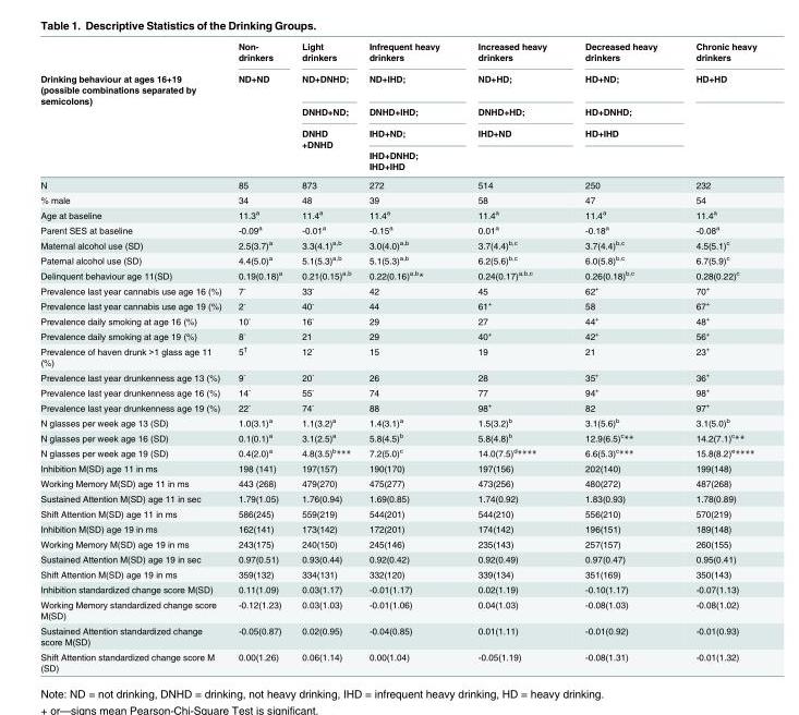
<table><thead><tr><td rowspan="6">Drinking behaviour at ages 16+19 (possible combinations separated by semicolons)</td><td rowspan="6">Non- drinkers ND+ND</td><td rowspan="6">Light drinkers ND+DNHD; DNHD+ND; DNHD +DNHD</td><td rowspan="6">Infrequent heavy drinkers ND+IHD; DNHD+IHD; IHD+ND; IHD+DNHD; IHD+IHD</td><td rowspan="6">Increased heavy drinkers ND+HD; DNHD+HD; IHD+ND</td><td rowspan="6">Decreased heavy drinkers HD+ND; HD+DNHD; HD+IHD</td><td rowspan="6">Chronic heavy drinkers HD+HD</td></tr><tr></tr><tr></tr><tr></tr><tr></tr><tr></tr></thead><tbody><tr><td>N</td><td>85</td><td>873</td><td>272</td><td>514</td><td>250</td><td>232</td></tr><tr><td>% male</td><td>34</td><td>48</td><td>39</td><td>58</td><td>47</td><td>54</td></tr><tr><td>Age at baseline</td><td>11.3<sup>a</sup></td><td>11.4<sup>a</sup></td><td>11.4<sup>a</sup></td><td>11.4<sup>a</sup></td><td>11.4<sup>a</sup></td><td>11.4<sup>a</sup></td></tr><tr><td>Parent SES at baseline</td><td>-0.09<sup>a</sup></td><td>-0.01<sup>a</sup></td><td>-0.15<sup>a</sup></td><td>0.01<sup>a</sup></td><td>-0.18<sup>a</sup></td><td>-0.08<sup>a</sup></td></tr><tr><td>Maternal alcohol use (SD)</td><td>2.5(3.7)<sup>a</sup></td><td>3.3(4.1)<sup>a,b</sup></td><td>3.0(4.0)<sup>a,b</sup></td><td>3.7(4.4)<sup>b,c</sup></td><td>3.7(4.4)<sup>b,c</sup></td><td>4.5(5.1)<sup>c</sup></td></tr><tr><td>Paternal alcohol use (SD)</td><td>4.4(5.0)<sup>a</sup></td><td>5.1(5.3)<sup>a,b</sup></td><td>5.1(5.3)<sup>a,b</sup></td><td>6.2(5.6)<sup>b,c</sup></td><td>6.0(5.8)<sup>b,c</sup></td><td>6.7(5.9)<sup>c</sup></td></tr><tr><td>Delinquent behaviour age 11(SD)</td><td>0.19(0.18)<sup>a</sup></td><td>0.21(0.15)<sup>a,b</sup></td><td>0.22(0.16)<sup>a,b</sup>*</td><td>0.24(0.17)<sup>a,b,c</sup></td><td>0.26(0.18)<sup>b,c</sup></td><td>0.28(0.22)<sup>c</sup></td></tr><tr><td>Prevalence last year cannabis use age 16 (%)</td><td>7<sup>-</sup></td><td>33<sup>-</sup></td><td>42</td><td>45</td><td>62<sup>+</sup></td><td>70<sup>+</sup></td></tr><tr><td>Prevalence last year cannabis use age 19 (%)</td><td>2<sup>-</sup></td><td>40<sup>-</sup></td><td>44</td><td>61<sup>+</sup></td><td>58</td><td>67<sup>+</sup></td></tr><tr><td>Prevalence daily smoking at age 16 (%)</td><td>10<sup>-</sup></td><td>16<sup>-</sup></td><td>29</td><td>27</td><td>44<sup>+</sup></td><td>48<sup>+</sup></td></tr><tr><td>Prevalence daily smoking at age 19 (%)</td><td>8<sup>-</sup></td><td>21</td><td>29</td><td>40<sup>+</sup></td><td>42<sup>+</sup></td><td>56<sup>+</sup></td></tr><tr><td>Prevalence of haven drunk &gt;1 glass age 11 (%)</td><td>5<sup>†</sup></td><td>12<sup>-</sup></td><td>15</td><td>19</td><td>21</td><td>23<sup>+</sup></td></tr><tr><td>Prevalence last year drunkenness age 13 (%)</td><td>9<sup>-</sup></td><td>20<sup>-</sup></td><td>26</td><td>28</td><td>35<sup>+</sup></td><td>36<sup>+</sup></td></tr><tr><td>Prevalence last year drunkenness age 16 (%)</td><td>14<sup>-</sup></td><td>55<sup>-</sup></td><td>74</td><td>77</td><td>94<sup>+</sup></td><td>98<sup>+</sup></td></tr><tr><td>Prevalence last year drunkenness age 19 (%)</td><td>22<sup>-</sup></td><td>74<sup>-</sup></td><td>88</td><td>98<sup>+</sup></td><td>82</td><td>97<sup>+</sup></td></tr><tr><td>N glasses per week age 13 (SD)</td><td>1.0(3.1)<sup>a</sup></td><td>1.1(3.2)<sup>a</sup></td><td>1.4(3.1)<sup>a</sup></td><td>1.5(3.2)<sup>b</sup></td><td>3.1(5.6)<sup>b</sup></td><td>3.1(5.0)<sup>b</sup></td></tr><tr><td>N glasses per week age 16 (SD)</td><td>0.1(0.1)<sup>a</sup></td><td>3.1(2.5)<sup>a</sup></td><td>5.8(4.5)<sup>b</sup></td><td>5.8(4.8)<sup>b</sup></td><td>12.9(6.5)<sup>c</sup>**</td><td>14.2(7.1)<sup>c</sup>**</td></tr><tr><td>N glasses per week age 19 (SD)</td><td>0.4(2.0)<sup>a</sup></td><td>4.8(3.5)<sup>b</sup>***</td><td>7.2(5.0)<sup>c</sup></td><td>14.0(7.5)<sup>d</sup>****</td><td>6.6(5.3)<sup>c</sup>***</td><td>15.8(8.2)<sup>e</sup>****</td></tr><tr><td>Inhibition M(SD) age 11 in ms</td><td>198 (141)</td><td>197(157)</td><td>190(170)</td><td>197(156)</td><td>202(140)</td><td>199(148)</td></tr><tr><td>Working Memory M(SD) age 11 in ms</td><td>443 (268)</td><td>479(270)</td><td>475(277)</td><td>473(256)</td><td>480(272)</td><td>487(268)</td></tr><tr><td>Sustained Attention M(SD) age 11 in sec</td><td>1.79(1.05)</td><td>1.76(0.94)</td><td>1.69(0.85)</td><td>1.74(0.92)</td><td>1.83(0.93)</td><td>1.78(0.89)</td></tr><tr><td>Shift Attention M(SD) age 11 in ms</td><td>586(245)</td><td>559(219)</td><td>544(201)</td><td>544(210)</td><td>556(210)</td><td>570(219)</td></tr><tr><td>Inhibition M(SD) age 19 in ms</td><td>162(141)</td><td>173(142)</td><td>172(201)</td><td>174(142)</td><td>196(151)</td><td>189(148)</td></tr><tr><td>Working Memory M(SD) age 19 in ms</td><td>243(175)</td><td>240(150)</td><td>245(146)</td><td>235(143)</td><td>257(157)</td><td>260(155)</td></tr><tr><td>Sustained Attention M(SD) age 19 in sec</td><td>0.97(0.51)</td><td>0.93(0.44)</td><td>0.92(0.42)</td><td>0.92(0.49)</td><td>0.97(0.47)</td><td>0.95(0.41)</td></tr><tr><td>Shift Attention M(SD) age 19 in ms</td><td>359(132)</td><td>334(131)</td><td>332(120)</td><td>339(134)</td><td>351(169)</td><td>350(143)</td></tr><tr><td>Inhibition standardized change score M(SD)</td><td>0.11(1.09)</td><td>0.03(1.17)</td><td>-0.01(1.17)</td><td>0.02(1.19)</td><td>-0.10(1.17)</td><td>-0.07(1.13)</td></tr><tr><td>Working Memory standardized change score M(SD)</td><td>-0.12(1.23)</td><td>0.03(1.03)</td><td>-0.01(1.06)</td><td>0.04(1.03)</td><td>-0.08(1.03)</td><td>-0.08(1.02)</td></tr><tr><td>Sustained Attention standardized change score M(SD)</td><td>-0.05(0.87)</td><td>0.02(0.95)</td><td>-0.04(0.85)</td><td>0.01(1.11)</td><td>-0.01(0.92)</td><td>-0.01(0.93)</td></tr><tr><td>Shift Attention standardized change score M (SD)</td><td>0.00(1.26)</td><td>0.06(1.14)</td><td>0.00(1.04)</td><td>-0.05(1.19)</td><td>-0.08(1.31)</td><td>-0.01(1.32)</td></tr></tbody></table>